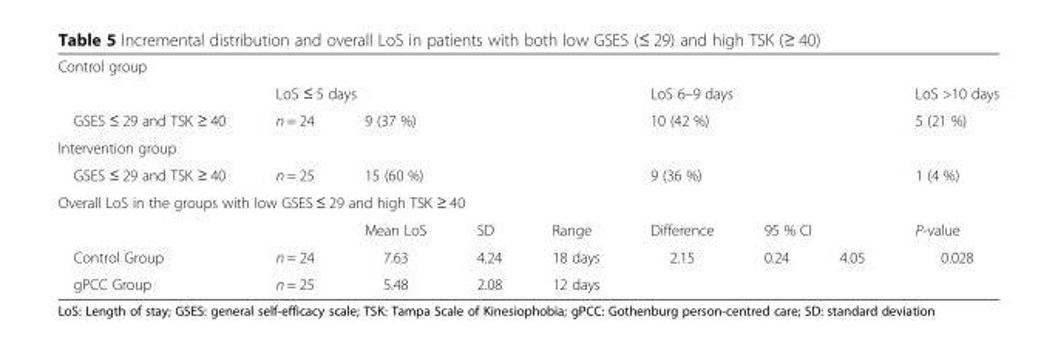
<table><tbody><tr><td colspan="9">Control group</td></tr><tr><td></td><td colspan="4">LoS ≤ 5 days</td><td colspan="3">LoS 6–9 days</td><td>LoS &gt;10 days</td></tr><tr><td>GSES ≤ 29 and TSK ≥ 40</td><td>n = 24</td><td colspan="3">9 (37 %)</td><td colspan="3">10 (42 %)</td><td>5 (21 %)</td></tr><tr><td colspan="9">Intervention group</td></tr><tr><td>GSES ≤ 29 and TSK ≥ 40</td><td>n = 25</td><td colspan="3">15 (60 %)</td><td colspan="3">9 (36 %)</td><td>1 (4 %)</td></tr><tr><td colspan="9">Overall LoS in the groups with low GSES ≤ 29 and high TSK ≥ 40</td></tr><tr><td colspan="2"></td><td>Mean LoS</td><td>SD</td><td>Range</td><td>Difference</td><td colspan="2">95 % CI</td><td>P-value</td></tr><tr><td>Control Group</td><td>n = 24</td><td>7.63</td><td>4.24</td><td>18 days</td><td rowspan="2">2.15</td><td rowspan="2">0.24</td><td rowspan="2">4.05</td><td rowspan="2">0.028</td></tr><tr><td>gPCC Group</td><td>n = 25</td><td>5.48</td><td>2.08</td><td>12 days</td></tr></tbody></table>